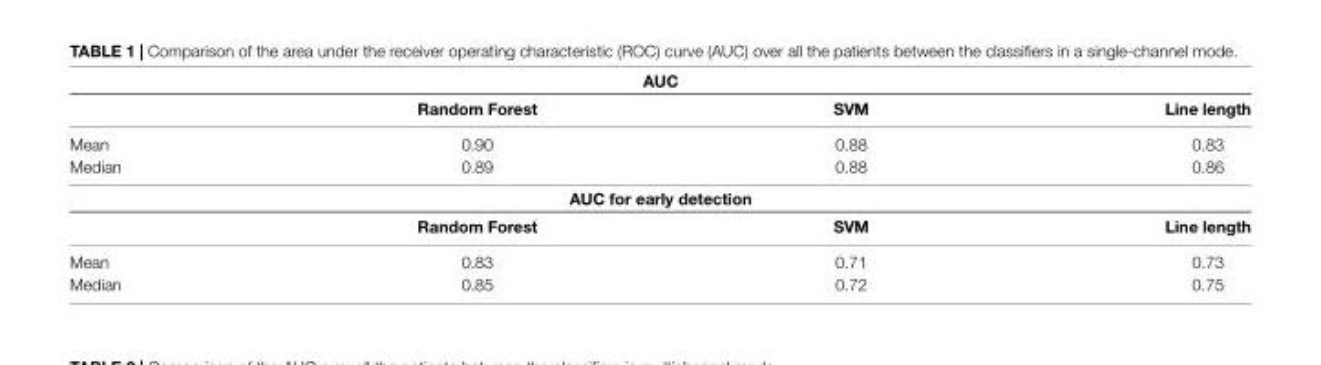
<table><thead><tr><td colspan="4">AUC</td></tr><tr><td></td><td>Random Forest</td><td>SVM</td><td>Line length</td></tr></thead><tbody><tr><td>Mean</td><td>0.90</td><td>0.88</td><td>0.83</td></tr><tr><td>Median</td><td>0.89</td><td>0.88</td><td>0.86</td></tr><tr><td colspan="4">AUC for early detection</td></tr><tr><td></td><td>Random Forest</td><td>SVM</td><td>Line length</td></tr><tr><td>Mean</td><td>0.83</td><td>0.71</td><td>0.73</td></tr><tr><td>Median</td><td>0.85</td><td>0.72</td><td>0.75</td></tr></tbody></table>